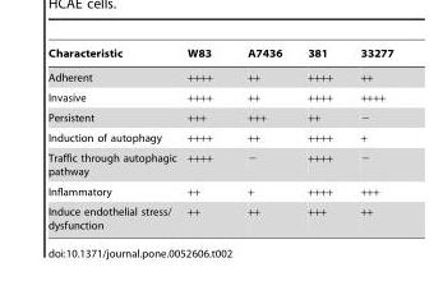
<table><thead><tr><td>Characteristic</td><td>W83</td><td>A7436</td><td>381</td><td>33277</td></tr></thead><tbody><tr><td>Adherent</td><td>++++</td><td>++</td><td>++++</td><td>++</td></tr><tr><td>Invasive</td><td>++++</td><td>++</td><td>++++</td><td>++++</td></tr><tr><td>Persistent</td><td>+++</td><td>+++</td><td>++</td><td>−</td></tr><tr><td>Induction of autophagy</td><td>++++</td><td>++</td><td>++++</td><td>+</td></tr><tr><td>Traffic through autophagic pathway</td><td>++++</td><td>−</td><td>++++</td><td>−</td></tr><tr><td>Inflammatory</td><td>++</td><td>+</td><td>++++</td><td>+++</td></tr><tr><td>Induce endothelial stress/ dysfunction</td><td>++</td><td>++</td><td>+++</td><td>++</td></tr></tbody></table>